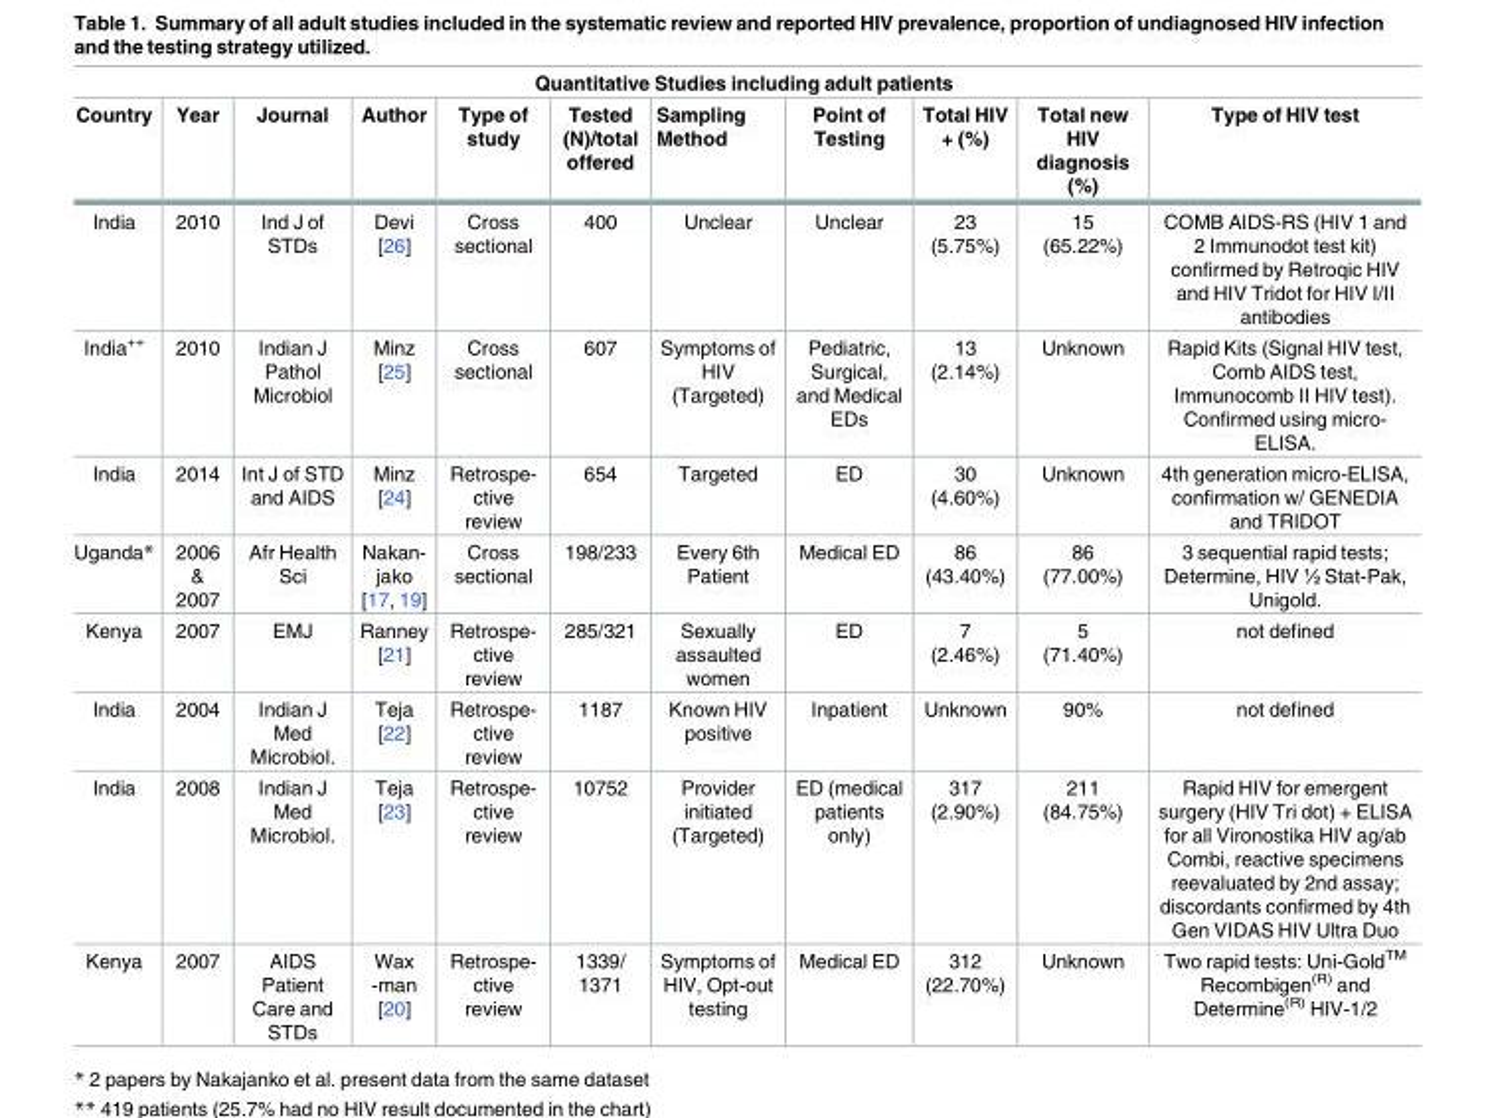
<table><thead><tr><td colspan="11">Quantitative Studies including adult patients</td></tr><tr><td>Country</td><td>Year</td><td>Journal</td><td>Author</td><td>Type of study</td><td>Tested (N)/total offered</td><td>Sampling Method</td><td>Point of Testing</td><td>Total HIV + (%)</td><td>Total new HIV diagnosis (%)</td><td>Type of HIV test</td></tr></thead><tbody><tr><td>India</td><td>2010</td><td>Ind J of STDs</td><td>Devi [26]</td><td>Cross sectional</td><td>400</td><td>Unclear</td><td>Unclear</td><td>23 (5.75%)</td><td>15 (65.22%)</td><td>COMB AIDS-RS (HIV 1 and 2 Immunodot test kit) confirmed by Retroqic HIV and HIV Tridot for HIV I/II antibodies</td></tr><tr><td>India<sup>++</sup></td><td>2010</td><td>Indian J Pathol Microbiol</td><td>Minz [25]</td><td>Cross sectional</td><td>607</td><td>Symptoms of HIV (Targeted)</td><td>Pediatric, Surgical, and Medical EDs</td><td>13 (2.14%)</td><td>Unknown</td><td>Rapid Kits (Signal HIV test, Comb AIDS test, Immunocomb II HIV test). Confirmed using micro- ELISA.</td></tr><tr><td>India</td><td>2014</td><td>Int J of STD and AIDS</td><td>Minz [24]</td><td>Retrospe- ctive review</td><td>654</td><td>Targeted</td><td>ED</td><td>30 (4.60%)</td><td>Unknown</td><td>4th generation micro-ELISA, confirmation w/ GENEDIA and TRIDOT</td></tr><tr><td>Uganda*</td><td>2006 &amp; 2007</td><td>Afr Health Sci</td><td>Nakan- jako [17, 19]</td><td>Cross sectional</td><td>198/233</td><td>Every 6th Patient</td><td>Medical ED</td><td>86 (43.40%)</td><td>86 (77.00%)</td><td>3 sequential rapid tests; Determine, HIV ½ Stat-Pak, Unigold.</td></tr><tr><td>Kenya</td><td>2007</td><td>EMJ</td><td>Ranney [21]</td><td>Retrospe- ctive review</td><td>285/321</td><td>Sexually assaulted women</td><td>ED</td><td>7 (2.46%)</td><td>5 (71.40%)</td><td>not defined</td></tr><tr><td>India</td><td>2004</td><td>Indian J Med Microbiol.</td><td>Teja [22]</td><td>Retrospe- ctive review</td><td>1187</td><td>Known HIV positive</td><td>Inpatient</td><td>Unknown</td><td>90%</td><td>not defined</td></tr><tr><td>India</td><td>2008</td><td>Indian J Med Microbiol.</td><td>Teja [23]</td><td>Retrospe- ctive review</td><td>10752</td><td>Provider initiated (Targeted)</td><td>ED (medical patients only)</td><td>317 (2.90%)</td><td>211 (84.75%)</td><td>Rapid HIV for emergent surgery (HIV Tri dot) + ELISA for all Vironostika HIV ag/ab Combi, reactive specimens reevaluated by 2nd assay; discordants confirmed by 4th Gen VIDAS HIV Ultra Duo</td></tr><tr><td>Kenya</td><td>2007</td><td>AIDS Patient Care and STDs</td><td>Wax -man [20]</td><td>Retrospe- ctive review</td><td>1339/ 1371</td><td>Symptoms of HIV, Opt-out testing</td><td>Medical ED</td><td>312 (22.70%)</td><td>Unknown</td><td>Two rapid tests: Uni-Gold<sup>TM</sup> Recombigen<sup>(R)</sup> and Determine<sup>(R)</sup> HIV-1/2</td></tr></tbody></table>